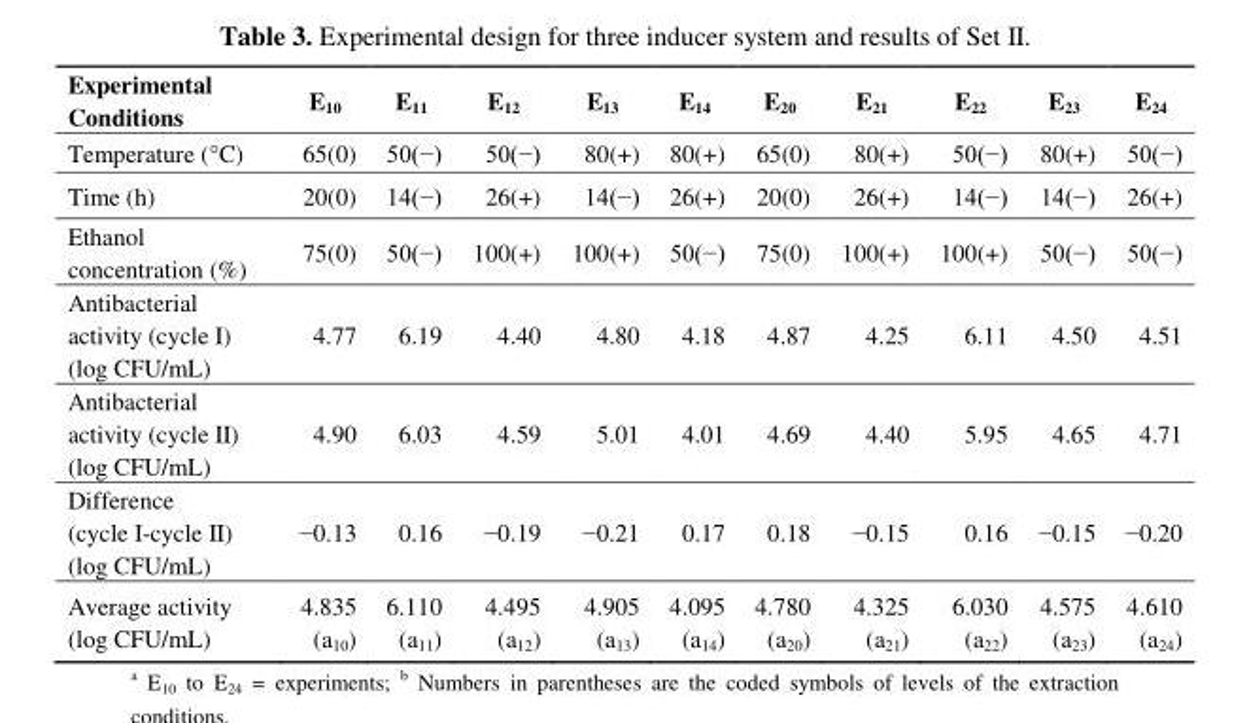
<table><thead><tr><td>Experimental Conditions</td><td>E<sub>10</sub></td><td>E<sub>11</sub></td><td>E<sub>12</sub></td><td>E<sub>13</sub></td><td>E<sub>14</sub></td><td>E<sub>20</sub></td><td>E<sub>21</sub></td><td>E<sub>22</sub></td><td>E<sub>23</sub></td><td>E<sub>24</sub></td></tr></thead><tbody><tr><td>Temperature (°C)</td><td>65(0)</td><td>50(−)</td><td>50(−)</td><td>80(+)</td><td>80(+)</td><td>65(0)</td><td>80(+)</td><td>50(−)</td><td>80(+)</td><td>50(−)</td></tr><tr><td>Time (h)</td><td>20(0)</td><td>14(−)</td><td>26(+)</td><td>14(−)</td><td>26(+)</td><td>20(0)</td><td>26(+)</td><td>14(−)</td><td>14(−)</td><td>26(+)</td></tr><tr><td>Ethanol concentration (%)</td><td>75(0)</td><td>50(−)</td><td>100(+)</td><td>100(+)</td><td>50(−)</td><td>75(0)</td><td>100(+)</td><td>100(+)</td><td>50(−)</td><td>50(−)</td></tr><tr><td>Antibacterial activity (cycle I) (log CFU/mL)</td><td>4.77</td><td>6.19</td><td>4.40</td><td>4.80</td><td>4.18</td><td>4.87</td><td>4.25</td><td>6.11</td><td>4.50</td><td>4.51</td></tr><tr><td>Antibacterial activity (cycle II) (log CFU/mL)</td><td>4.90</td><td>6.03</td><td>4.59</td><td>5.01</td><td>4.01</td><td>4.69</td><td>4.40</td><td>5.95</td><td>4.65</td><td>4.71</td></tr><tr><td>Difference (cycle I-cycle II) (log CFU/mL)</td><td>−0.13</td><td>0.16</td><td>−0.19</td><td>−0.21</td><td>0.17</td><td>0.18</td><td>−0.15</td><td>0.16</td><td>−0.15</td><td>−0.20</td></tr><tr><td>Average activity (log CFU/mL)</td><td>4.835 (a<sub>10</sub>)</td><td>6.110 (a<sub>11</sub>)</td><td>4.495 (a<sub>12</sub>)</td><td>4.905 (a<sub>13</sub>)</td><td>4.095 (a<sub>14</sub>)</td><td>4.780 (a<sub>20</sub>)</td><td>4.325 (a<sub>21</sub>)</td><td>6.030 (a<sub>22</sub>)</td><td>4.575 (a<sub>23</sub>)</td><td>4.610 (a<sub>24</sub>)</td></tr></tbody></table>